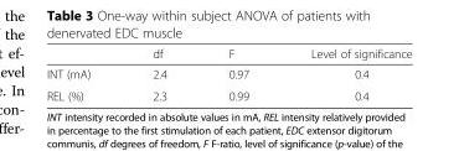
<table><thead><tr><td></td><td>df</td><td>F</td><td>Level of significance</td></tr></thead><tbody><tr><td>INT (mA)</td><td>2.4</td><td>0.97</td><td>0.4</td></tr><tr><td>REL (%)</td><td>2.3</td><td>0.99</td><td>0.4</td></tr></tbody></table>